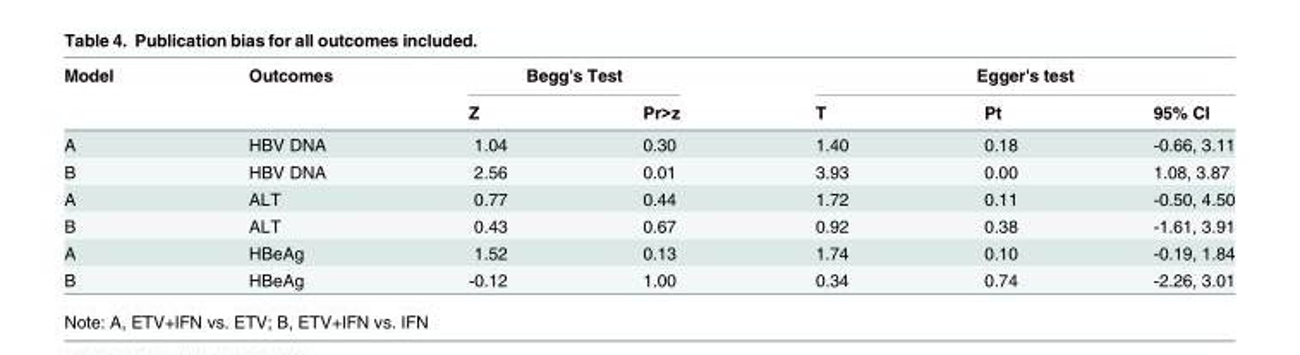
<table><thead><tr><td rowspan="2">Model</td><td rowspan="2">Outcomes</td><td colspan="2">Begg&#x27;s Test</td><td colspan="3">Egger&#x27;s test</td></tr><tr><td>Z</td><td>Pr&gt;z</td><td>T</td><td>Pt</td><td>95% CI</td></tr></thead><tbody><tr><td>A</td><td>HBV DNA</td><td>1.04</td><td>0.30</td><td>1.40</td><td>0.18</td><td>-0.66, 3.11</td></tr><tr><td>B</td><td>HBV DNA</td><td>2.56</td><td>0.01</td><td>3.93</td><td>0.00</td><td>1.08, 3.87</td></tr><tr><td>A</td><td>ALT</td><td>0.77</td><td>0.44</td><td>1.72</td><td>0.11</td><td>-0.50, 4.50</td></tr><tr><td>B</td><td>ALT</td><td>0.43</td><td>0.67</td><td>0.92</td><td>0.38</td><td>-1.61, 3.91</td></tr><tr><td>A</td><td>HBeAg</td><td>1.52</td><td>0.13</td><td>1.74</td><td>0.10</td><td>-0.19, 1.84</td></tr><tr><td>B</td><td>HBeAg</td><td>-0.12</td><td>1.00</td><td>0.34</td><td>0.74</td><td>-2.26, 3.01</td></tr></tbody></table>